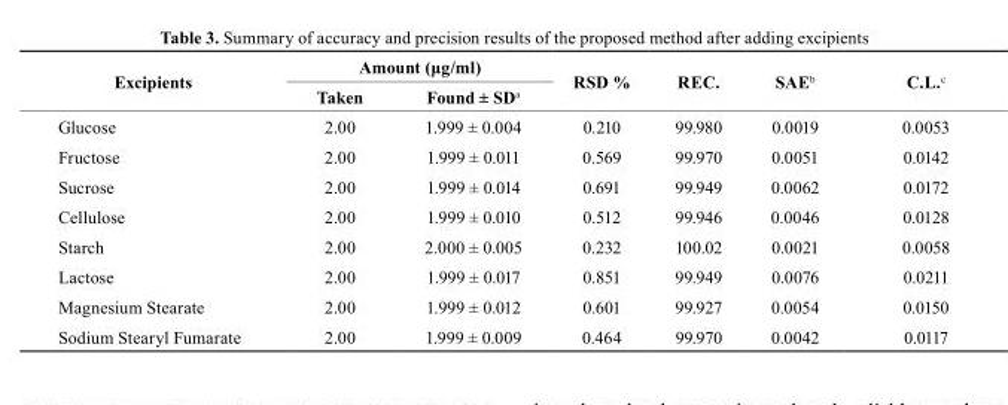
<table><thead><tr><td rowspan="2">Excipients</td><td colspan="2">Amount (μg/ml)</td><td rowspan="2">rsD %</td><td rowspan="2">rEc.</td><td rowspan="2">sAE<sup>b</sup></td><td rowspan="2">c.L.<sup>c</sup></td></tr><tr><td>taken</td><td>Found ± sD<sup>a</sup></td></tr></thead><tbody><tr><td>Glucose</td><td>2.00</td><td>1.999 ± 0.004</td><td>0.210</td><td>99.980</td><td>0.0019</td><td>0.0053</td></tr><tr><td>Fructose</td><td>2.00</td><td>1.999 ± 0.011</td><td>0.569</td><td>99.970</td><td>0.0051</td><td>0.0142</td></tr><tr><td>Sucrose</td><td>2.00</td><td>1.999 ± 0.014</td><td>0.691</td><td>99.949</td><td>0.0062</td><td>0.0172</td></tr><tr><td>Cellulose</td><td>2.00</td><td>1.999 ± 0.010</td><td>0.512</td><td>99.946</td><td>0.0046</td><td>0.0128</td></tr><tr><td>Starch</td><td>2.00</td><td>2.000 ± 0.005</td><td>0.232</td><td>100.02</td><td>0.0021</td><td>0.0058</td></tr><tr><td>Lactose</td><td>2.00</td><td>1.999 ± 0.017</td><td>0.851</td><td>99.949</td><td>0.0076</td><td>0.0211</td></tr><tr><td>Magnesium Stearate</td><td>2.00</td><td>1.999 ± 0.012</td><td>0.601</td><td>99.927</td><td>0.0054</td><td>0.0150</td></tr><tr><td>Sodium Stearyl Fumarate</td><td>2.00</td><td>1.999 ± 0.009</td><td>0.464</td><td>99.970</td><td>0.0042</td><td>0.0117</td></tr></tbody></table>